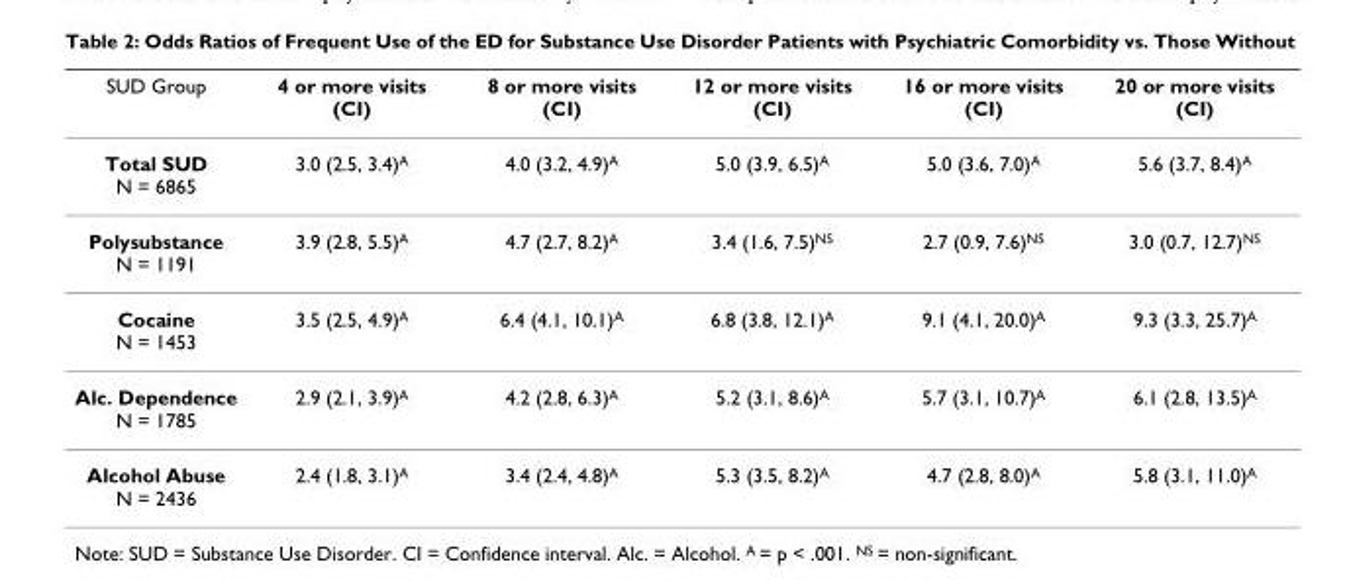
<table><thead><tr><td>SUD Group</td><td>4 or more visits (CI)</td><td>8 or more visits (CI)</td><td>12 or more visits (CI)</td><td>16 or more visits (CI)</td><td>20 or more visits (CI)</td></tr></thead><tbody><tr><td>Total SUD N = 6865</td><td>3.0 (2.5, 3.4)<sup>A</sup></td><td>4.0 (3.2, 4.9)<sup>A</sup></td><td>5.0 (3.9, 6.5)<sup>A</sup></td><td>5.0 (3.6, 7.0)<sup>A</sup></td><td>5.6 (3.7, 8.4)<sup>A</sup></td></tr><tr><td>Polysubstance N = 1191</td><td>3.9 (2.8, 5.5)<sup>A</sup></td><td>4.7 (2.7, 8.2)<sup>A</sup></td><td>3.4 (1.6, 7.5)<sup>NS</sup></td><td>2.7 (0.9, 7.6)<sup>NS</sup></td><td>3.0 (0.7, 12.7)<sup>NS</sup></td></tr><tr><td>Cocaine N = 1453</td><td>3.5 (2.5, 4.9)<sup>A</sup></td><td>6.4 (4.1, 10.1)<sup>A</sup></td><td>6.8 (3.8, 12.1)<sup>A</sup></td><td>9.1 (4.1, 20.0)<sup>A</sup></td><td>9.3 (3.3, 25.7)<sup>A</sup></td></tr><tr><td>Alc. Dependence N = 1785</td><td>2.9 (2.1, 3.9)<sup>A</sup></td><td>4.2 (2.8, 6.3)<sup>A</sup></td><td>5.2 (3.1, 8.6)<sup>A</sup></td><td>5.7 (3.1, 10.7)<sup>A</sup></td><td>6.1 (2.8, 13.5)<sup>A</sup></td></tr><tr><td>Alcohol Abuse N = 2436</td><td>2.4 (1.8, 3.1)<sup>A</sup></td><td>3.4 (2.4, 4.8)<sup>A</sup></td><td>5.3 (3.5, 8.2)<sup>A</sup></td><td>4.7 (2.8, 8.0)<sup>A</sup></td><td>5.8 (3.1, 11.0)<sup>A</sup></td></tr></tbody></table>